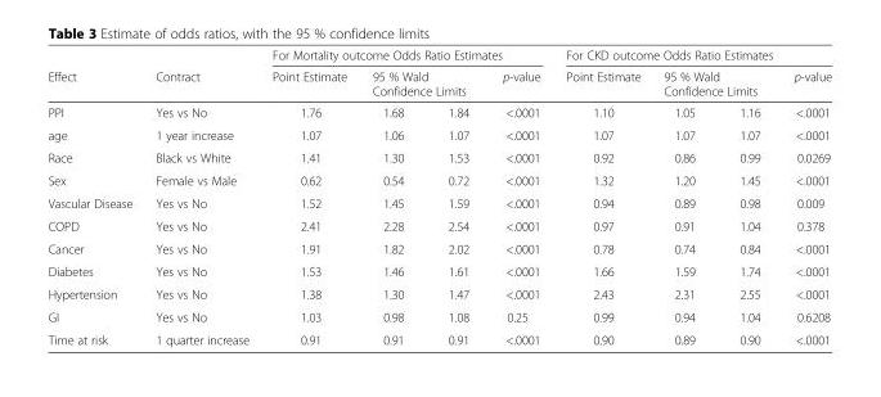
<table><thead><tr><td rowspan="3">Effect PPI</td><td rowspan="3">Contract Yes vs No</td><td colspan="4">For Mortality outcome Odds Ratio Estimates</td><td colspan="4">For CKD outcome Odds Ratio Estimates</td></tr><tr><td rowspan="2">Point Estimate 1.76</td><td colspan="2">95 % Wald Confidence Limits</td><td rowspan="2">p-value &lt;.0001</td><td rowspan="2">Point Estimate 1.10</td><td colspan="2">95 % Wald Confidence Limits</td><td rowspan="2">p-value &lt;.0001</td></tr><tr><td>1.68</td><td>1.84</td><td>1.05</td><td>1.16</td></tr></thead><tbody><tr><td>age</td><td>1 year increase</td><td>1.07</td><td>1.06</td><td>1.07</td><td>&lt;.0001</td><td>1.07</td><td>1.07</td><td>1.07</td><td>&lt;.0001</td></tr><tr><td>Race</td><td>Black vs White</td><td>1.41</td><td>1.30</td><td>1.53</td><td>&lt;.0001</td><td>0.92</td><td>0.86</td><td>0.99</td><td>0.0269</td></tr><tr><td>Sex</td><td>Female vs Male</td><td>0.62</td><td>0.54</td><td>0.72</td><td>&lt;.0001</td><td>1.32</td><td>1.20</td><td>1.45</td><td>&lt;.0001</td></tr><tr><td>Vascular Disease</td><td>Yes vs No</td><td>1.52</td><td>1.45</td><td>1.59</td><td>&lt;.0001</td><td>0.94</td><td>0.89</td><td>0.98</td><td>0.009</td></tr><tr><td>COPD</td><td>Yes vs No</td><td>2.41</td><td>2.28</td><td>2.54</td><td>&lt;.0001</td><td>0.97</td><td>0.91</td><td>1.04</td><td>0.378</td></tr><tr><td>Cancer</td><td>Yes vs No</td><td>1.91</td><td>1.82</td><td>2.02</td><td>&lt;.0001</td><td>0.78</td><td>0.74</td><td>0.84</td><td>&lt;.0001</td></tr><tr><td>Diabetes</td><td>Yes vs No</td><td>1.53</td><td>1.46</td><td>1.61</td><td>&lt;.0001</td><td>1.66</td><td>1.59</td><td>1.74</td><td>&lt;.0001</td></tr><tr><td>Hypertension</td><td>Yes vs No</td><td>1.38</td><td>1.30</td><td>1.47</td><td>&lt;.0001</td><td>2.43</td><td>2.31</td><td>2.55</td><td>&lt;.0001</td></tr><tr><td>GI</td><td>Yes vs No</td><td>1.03</td><td>0.98</td><td>1.08</td><td>0.25</td><td>0.99</td><td>0.94</td><td>1.04</td><td>0.6208</td></tr><tr><td>Time at risk</td><td>1 quarter increase</td><td>0.91</td><td>0.91</td><td>0.91</td><td>&lt;.0001</td><td>0.90</td><td>0.89</td><td>0.90</td><td>&lt;.0001</td></tr></tbody></table>